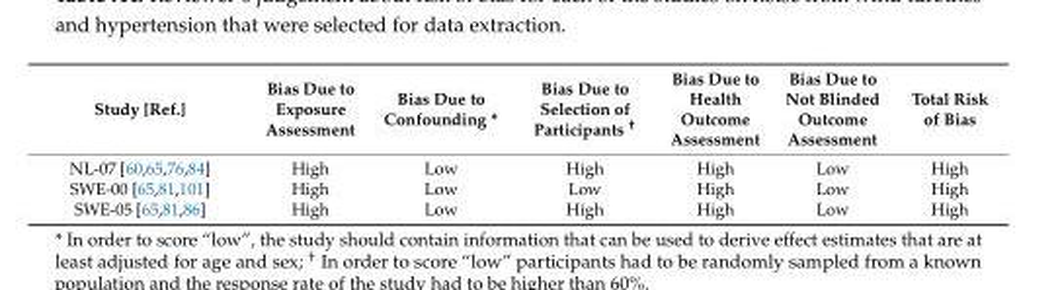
<table><thead><tr><td>Study [Ref.]</td><td>Bias Due to Exposure Assessment</td><td>Bias Due to Confounding *</td><td>Bias Due to Selection of Participants <sup>†</sup></td><td>Bias Due to Health Outcome Assessment</td><td>Bias Due to Not Blinded Outcome Assessment</td><td>Total Risk of Bias</td></tr></thead><tbody><tr><td>NL-07 [60,65,76,84]</td><td>High</td><td>Low</td><td>High</td><td>High</td><td>Low</td><td>High</td></tr><tr><td>SWE-00 [65,81,101]</td><td>High</td><td>Low</td><td>Low</td><td>High</td><td>Low</td><td>High</td></tr><tr><td>SWE-05 [65,81,86]</td><td>High</td><td>Low</td><td>High</td><td>High</td><td>Low</td><td>High</td></tr></tbody></table>